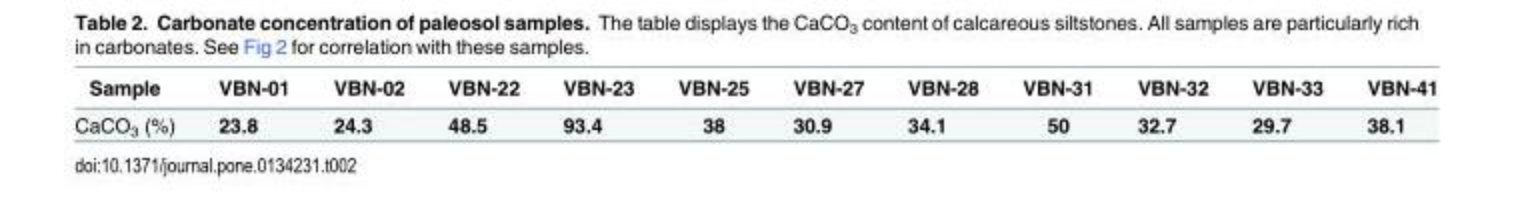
<table><thead><tr><td>Sample</td><td>VBN-01</td><td>VBN-02</td><td>VBN-22</td><td>VBN-23</td><td>VBN-25</td><td>VBN-27</td><td>VBN-28</td><td>VBN-31</td><td>VBN-32</td><td>VBN-33</td><td>VBN-41</td></tr></thead><tbody><tr><td>CaCO<sub>3</sub> (%)</td><td>23.8</td><td>24.3</td><td>48.5</td><td>93.4</td><td>38</td><td>30.9</td><td>34.1</td><td>50</td><td>32.7</td><td>29.7</td><td>38.1</td></tr></tbody></table>